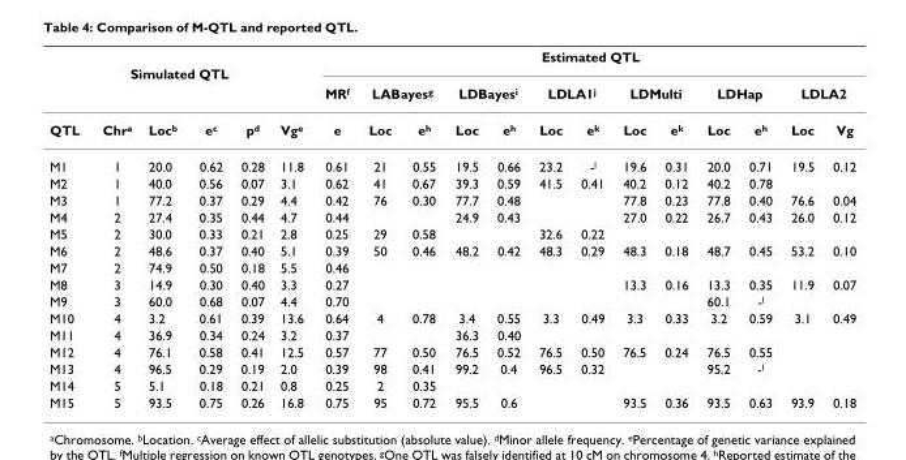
<table><thead><tr><td></td><td></td><td></td><td></td><td></td><td></td><td colspan="13">Estimated QTL</td></tr><tr><td colspan="6">Simulated QTL</td><td rowspan="2">MR<sup>f</sup></td><td></td><td></td><td></td><td></td><td></td><td></td><td></td><td></td><td></td><td></td><td></td><td></td></tr><tr><td></td><td></td><td></td><td></td><td></td><td></td><td colspan="2">LABayes<sup>g</sup></td><td colspan="2">LDBayes<sup>i</sup></td><td colspan="2">LDLA1<sup>j</sup></td><td colspan="2">LDMulti</td><td colspan="2">LDHap</td><td colspan="2">LDLA2</td></tr></thead><tbody><tr><td>QTL</td><td>Chr<sup>a</sup></td><td>Loc<sup>b</sup></td><td>e<sup>c</sup></td><td>p<sup>d</sup></td><td>Vg<sup>e</sup></td><td>e</td><td>Loc</td><td>e<sup>h</sup></td><td>Loc</td><td>e<sup>h</sup></td><td>Loc</td><td>e<sup>k</sup></td><td>Loc</td><td>e<sup>k</sup></td><td>Loc</td><td>e<sup>h</sup></td><td>Loc</td><td>Vg</td></tr><tr><td>M1</td><td>1</td><td>20.0</td><td>0.62</td><td>0.28</td><td>11.8</td><td>0.61</td><td>21</td><td>0.55</td><td>19.5</td><td>0.66</td><td>23.2</td><td>-<sup>l</sup></td><td>19.6</td><td>0.31</td><td>20.0</td><td>0.71</td><td>19.5</td><td>0.12</td></tr><tr><td>M2</td><td>1</td><td>40.0</td><td>0.56</td><td>0.07</td><td>3.1</td><td>0.62</td><td>41</td><td>0.67</td><td>39.3</td><td>0.59</td><td>41.5</td><td>0.41</td><td>40.2</td><td>0.12</td><td>40.2</td><td>0.78</td><td></td><td></td></tr><tr><td>M3</td><td>1</td><td>77.2</td><td>0.37</td><td>0.29</td><td>4.4</td><td>0.42</td><td>76</td><td>0.30</td><td>77.7</td><td>0.48</td><td></td><td></td><td>77.8</td><td>0.23</td><td>77.8</td><td>0.40</td><td>76.6</td><td>0.04</td></tr><tr><td>M4</td><td>2</td><td>27.4</td><td>0.35</td><td>0.44</td><td>4.7</td><td>0.44</td><td></td><td></td><td>24.9</td><td>0.43</td><td></td><td></td><td>27.0</td><td>0.22</td><td>26.7</td><td>0.43</td><td>26.0</td><td>0.12</td></tr><tr><td>M5</td><td>2</td><td>30.0</td><td>0.33</td><td>0.21</td><td>2.8</td><td>0.25</td><td>29</td><td>0.58</td><td></td><td></td><td>32.6</td><td>0.22</td><td></td><td></td><td></td><td></td><td></td><td></td></tr><tr><td>M6</td><td>2</td><td>48.6</td><td>0.37</td><td>0.40</td><td>5.1</td><td>0.39</td><td>50</td><td>0.46</td><td>48.2</td><td>0.42</td><td>48.3</td><td>0.29</td><td>48.3</td><td>0.18</td><td>48.7</td><td>0.45</td><td>53.2</td><td>0.10</td></tr><tr><td>M7</td><td>2</td><td>74.9</td><td>0.50</td><td>0.18</td><td>5.5</td><td>0.46</td><td></td><td></td><td></td><td></td><td></td><td></td><td></td><td></td><td></td><td></td><td></td><td></td></tr><tr><td>M8</td><td>3</td><td>14.9</td><td>0.30</td><td>0.40</td><td>3.3</td><td>0.27</td><td></td><td></td><td></td><td></td><td></td><td></td><td>13.3</td><td>0.16</td><td>13.3</td><td>0.35</td><td>11.9</td><td>0.07</td></tr><tr><td>M9</td><td>3</td><td>60.0</td><td>0.68</td><td>0.07</td><td>4.4</td><td>0.70</td><td></td><td></td><td></td><td></td><td></td><td></td><td></td><td></td><td>60.1</td><td>-<sup>l</sup></td><td></td><td></td></tr><tr><td>M10</td><td>4</td><td>3.2</td><td>0.61</td><td>0.39</td><td>13.6</td><td>0.64</td><td>4</td><td>0.78</td><td>3.4</td><td>0.55</td><td>3.3</td><td>0.49</td><td>3.3</td><td>0.33</td><td>3.2</td><td>0.59</td><td>3.1</td><td>0.49</td></tr><tr><td>M11</td><td>4</td><td>36.9</td><td>0.34</td><td>0.24</td><td>3.2</td><td>0.37</td><td></td><td></td><td>36.3</td><td>0.40</td><td></td><td></td><td></td><td></td><td></td><td></td><td></td><td></td></tr><tr><td>M12</td><td>4</td><td>76.1</td><td>0.58</td><td>0.41</td><td>12.5</td><td>0.57</td><td>77</td><td>0.50</td><td>76.5</td><td>0.52</td><td>76.5</td><td>0.50</td><td>76.5</td><td>0.24</td><td>76.5</td><td>0.55</td><td></td><td></td></tr><tr><td>M13</td><td>4</td><td>96.5</td><td>0.29</td><td>0.19</td><td>2.0</td><td>0.39</td><td>98</td><td>0.41</td><td>99.2</td><td>0.4</td><td>96.5</td><td>0.32</td><td></td><td></td><td>95.2</td><td>-<sup>l</sup></td><td></td><td></td></tr><tr><td>M14</td><td>5</td><td>5.1</td><td>0.18</td><td>0.21</td><td>0.8</td><td>0.25</td><td>2</td><td>0.35</td><td></td><td></td><td></td><td></td><td></td><td></td><td></td><td></td><td></td><td></td></tr><tr><td>M15</td><td>5</td><td>93.5</td><td>0.75</td><td>0.26</td><td>16.8</td><td>0.75</td><td>95</td><td>0.72</td><td>95.5</td><td>0.6</td><td></td><td></td><td>93.5</td><td>0.36</td><td>93.5</td><td>0.63</td><td>93.9</td><td>0.18</td></tr></tbody></table>